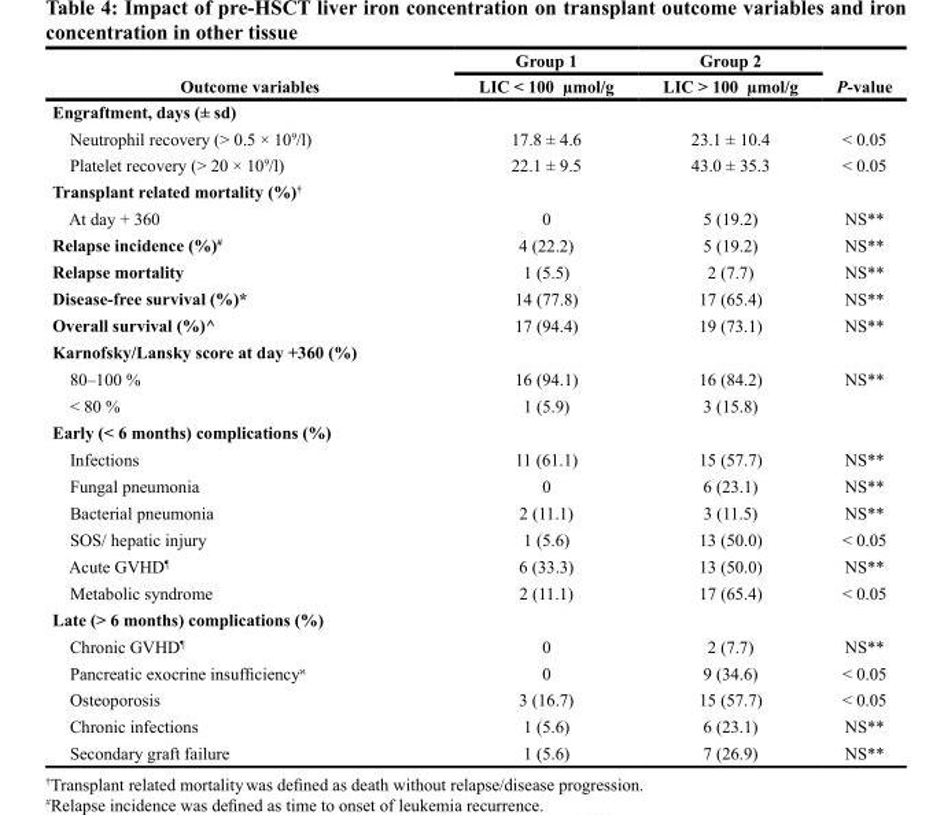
<table><thead><tr><td rowspan="2">Outcome variables</td><td rowspan="2">Group 1 LIC &lt; 100 µmol/g</td><td rowspan="2">Group 2 LIC &gt; 100 µmol/g</td><td rowspan="2">P-value</td></tr><tr></tr></thead><tbody><tr><td colspan="4">Engraftment, days (± sd)</td></tr><tr><td>Neutrophil recovery (&gt; 0.5 × 10<sup>9</sup>/l)</td><td>17.8 ± 4.6</td><td>23.1 ± 10.4</td><td>&lt; 0.05</td></tr><tr><td>Platelet recovery (&gt; 20 × 10<sup>9</sup>/l)</td><td>22.1 ± 9.5</td><td>43.0 ± 35.3</td><td>&lt; 0.05</td></tr><tr><td colspan="4">Transplant related mortality (%)<sup>†</sup></td></tr><tr><td>At day + 360</td><td>0</td><td>5 (19.2)</td><td>NS**</td></tr><tr><td>Relapse incidence (%)<sup>#</sup></td><td>4 (22.2)</td><td>5 (19.2)</td><td>NS**</td></tr><tr><td>Relapse mortality</td><td>1 (5.5)</td><td>2 (7.7)</td><td>NS**</td></tr><tr><td>Disease-free survival (%)*</td><td>14 (77.8)</td><td>17 (65.4)</td><td>NS**</td></tr><tr><td>Overall survival (%)^</td><td>17 (94.4)</td><td>19 (73.1)</td><td>NS**</td></tr><tr><td colspan="4">Karnofsky/Lansky score at day +360 (%)</td></tr><tr><td>80–100 %</td><td>16 (94.1)</td><td>16 (84.2)</td><td>NS**</td></tr><tr><td>&lt; 80 %</td><td>1 (5.9)</td><td>3 (15.8)</td><td></td></tr><tr><td colspan="4">Early (&lt; 6 months) complications (%)</td></tr><tr><td>Infections</td><td>11 (61.1)</td><td>15 (57.7)</td><td>NS**</td></tr><tr><td>Fungal pneumonia</td><td>0</td><td>6 (23.1)</td><td>NS**</td></tr><tr><td>Bacterial pneumonia</td><td>2 (11.1)</td><td>3 (11.5)</td><td>NS**</td></tr><tr><td>SOS/ hepatic injury</td><td>1 (5.6)</td><td>13 (50.0)</td><td>&lt; 0.05</td></tr><tr><td>Acute GVHD<sup>¶</sup></td><td>6 (33.3)</td><td>13 (50.0)</td><td>NS**</td></tr><tr><td>Metabolic syndrome</td><td>2 (11.1)</td><td>17 (65.4)</td><td>&lt; 0.05</td></tr><tr><td colspan="4">Late (&gt; 6 months) complications (%)</td></tr><tr><td>Chronic GVHD<sup>¶</sup></td><td>0</td><td>2 (7.7)</td><td>NS**</td></tr><tr><td>Pancreatic exocrine insufficiency<sup>ϰ</sup></td><td>0</td><td>9 (34.6)</td><td>&lt; 0.05</td></tr><tr><td>Osteoporosis</td><td>3 (16.7)</td><td>15 (57.7)</td><td>&lt; 0.05</td></tr><tr><td>Chronic infections</td><td>1 (5.6)</td><td>6 (23.1)</td><td>NS**</td></tr><tr><td>Secondary graft failure</td><td>1 (5.6)</td><td>7 (26.9)</td><td>NS**</td></tr></tbody></table>